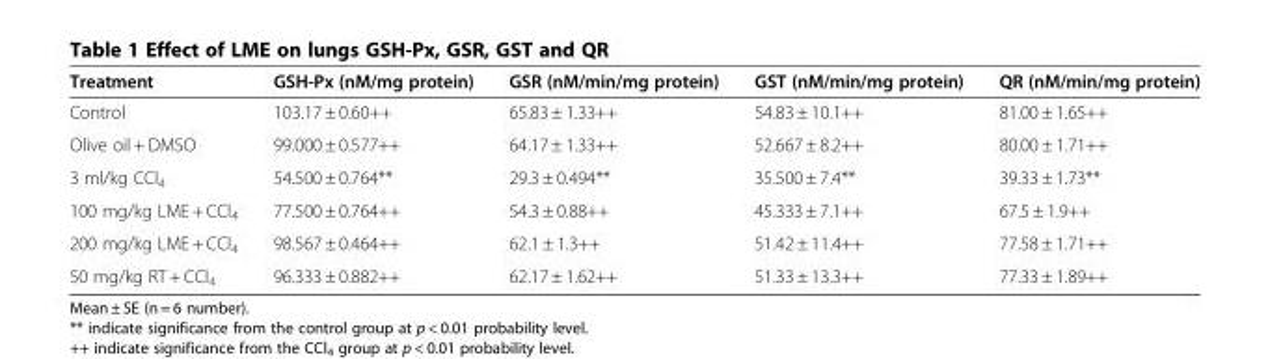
<table><thead><tr><td>Treatment</td><td>GSH-Px (nM/mg protein)</td><td>GSR (nM/min/mg protein)</td><td>GST (nM/min/mg protein)</td><td>QR (nM/min/mg protein)</td></tr></thead><tbody><tr><td>Control</td><td>103.17 ± 0.60++</td><td>65.83 ± 1.33++</td><td>54.83 ± 10.1++</td><td>81.00 ± 1.65++</td></tr><tr><td>Olive oil + DMSO</td><td>99.000 ± 0.577++</td><td>64.17 ± 1.33++</td><td>52.667 ± 8.2++</td><td>80.00 ± 1.71++</td></tr><tr><td>3 ml/kg CCl<sub>4</sub></td><td>54.500 ± 0.764**</td><td>29.3 ± 0.494**</td><td>35.500 ± 7.4**</td><td>39.33 ± 1.73**</td></tr><tr><td>100 mg/kg LME + CCl<sub>4</sub></td><td>77.500 ± 0.764++</td><td>54.3 ± 0.88++</td><td>45.333 ± 7.1++</td><td>67.5 ± 1.9++</td></tr><tr><td>200 mg/kg LME + CCl<sub>4</sub></td><td>98.567 ± 0.464++</td><td>62.1 ± 1.3++</td><td>51.42 ± 11.4++</td><td>77.58 ± 1.71++</td></tr><tr><td>50 mg/kg RT + CCl<sub>4</sub></td><td>96.333 ± 0.882++</td><td>62.17 ± 1.62++</td><td>51.33 ± 13.3++</td><td>77.33 ± 1.89++</td></tr></tbody></table>